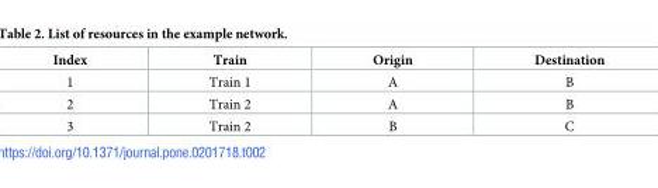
<table><thead><tr><td>Index</td><td>Train</td><td>Origin</td><td>Destination</td></tr></thead><tbody><tr><td>1</td><td>Train 1</td><td>A</td><td>B</td></tr><tr><td>2</td><td>Train 2</td><td>A</td><td>B</td></tr><tr><td>3</td><td>Train 2</td><td>B</td><td>C</td></tr></tbody></table>